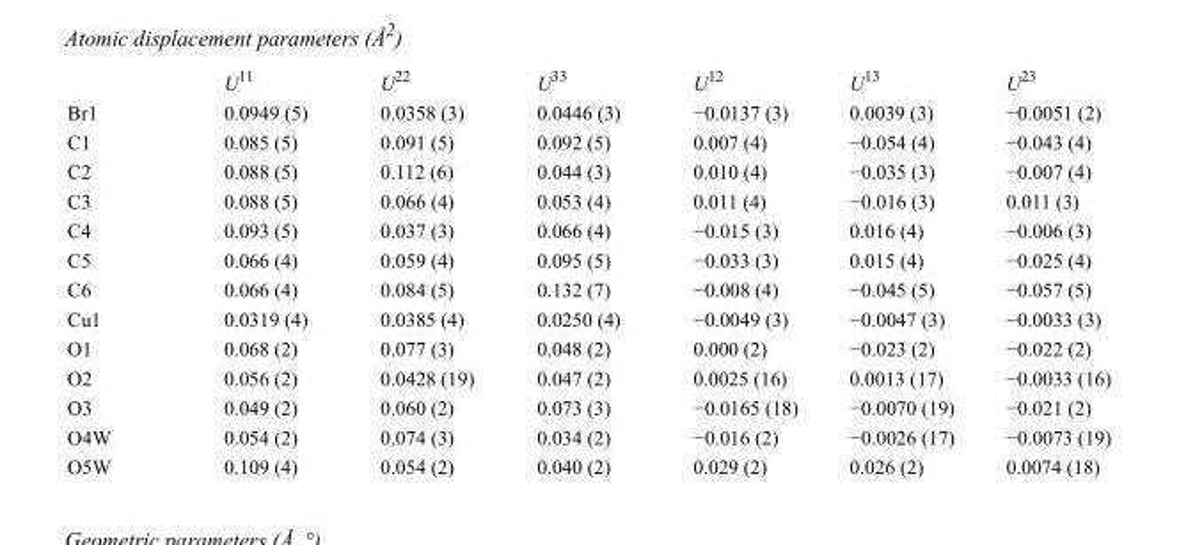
<table><thead><tr><td></td><td>U<sup>11</sup></td><td>U<sup>22</sup></td><td>U<sup>33</sup></td><td>U<sup>12</sup></td><td>U<sup>13</sup></td><td>U<sup>23</sup></td></tr></thead><tbody><tr><td>Br1</td><td>0.0949 (5)</td><td>0.0358 (3)</td><td>0.0446 (3)</td><td>−0.0137 (3)</td><td>0.0039 (3)</td><td>−0.0051 (2)</td></tr><tr><td>C1</td><td>0.085 (5)</td><td>0.091 (5)</td><td>0.092 (5)</td><td>0.007 (4)</td><td>−0.054 (4)</td><td>−0.043 (4)</td></tr><tr><td>C2</td><td>0.088 (5)</td><td>0.112 (6)</td><td>0.044 (3)</td><td>0.010 (4)</td><td>−0.035 (3)</td><td>−0.007 (4)</td></tr><tr><td>C3</td><td>0.088 (5)</td><td>0.066 (4)</td><td>0.053 (4)</td><td>0.011 (4)</td><td>−0.016 (3)</td><td>0.011 (3)</td></tr><tr><td>C4</td><td>0.093 (5)</td><td>0.037 (3)</td><td>0.066 (4)</td><td>−0.015 (3)</td><td>0.016 (4)</td><td>−0.006 (3)</td></tr><tr><td>C5</td><td>0.066 (4)</td><td>0.059 (4)</td><td>0.095 (5)</td><td>−0.033 (3)</td><td>0.015 (4)</td><td>−0.025 (4)</td></tr><tr><td>C6</td><td>0.066 (4)</td><td>0.084 (5)</td><td>0.132 (7)</td><td>−0.008 (4)</td><td>−0.045 (5)</td><td>−0.057 (5)</td></tr><tr><td>Cu1</td><td>0.0319 (4)</td><td>0.0385 (4)</td><td>0.0250 (4)</td><td>−0.0049 (3)</td><td>−0.0047 (3)</td><td>−0.0033 (3)</td></tr><tr><td>O1</td><td>0.068 (2)</td><td>0.077 (3)</td><td>0.048 (2)</td><td>0.000 (2)</td><td>−0.023 (2)</td><td>−0.022 (2)</td></tr><tr><td>O2</td><td>0.056 (2)</td><td>0.0428 (19)</td><td>0.047 (2)</td><td>0.0025 (16)</td><td>0.0013 (17)</td><td>−0.0033 (16)</td></tr><tr><td>O3</td><td>0.049 (2)</td><td>0.060 (2)</td><td>0.073 (3)</td><td>−0.0165 (18)</td><td>−0.0070 (19)</td><td>−0.021 (2)</td></tr><tr><td>O4W</td><td>0.054 (2)</td><td>0.074 (3)</td><td>0.034 (2)</td><td>−0.016 (2)</td><td>−0.0026 (17)</td><td>−0.0073 (19)</td></tr><tr><td>O5W</td><td>0.109 (4)</td><td>0.054 (2)</td><td>0.040 (2)</td><td>0.029 (2)</td><td>0.026 (2)</td><td>0.0074 (18)</td></tr></tbody></table>